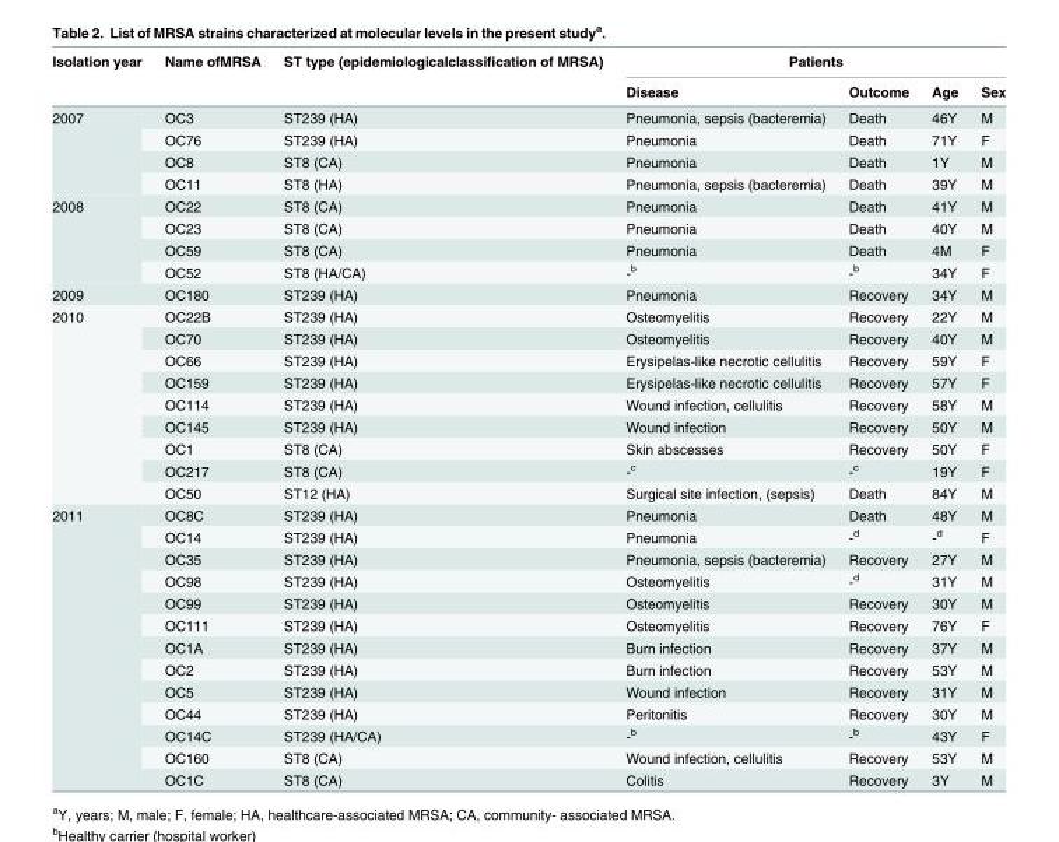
<table><thead><tr><td rowspan="2">Isolation year</td><td rowspan="2">Name ofMRSA</td><td rowspan="2">ST type (epidemiologicalclassification of MRSA)</td><td colspan="4">Patients</td></tr><tr><td>Disease</td><td>Outcome</td><td>Age</td><td>Sex</td></tr></thead><tbody><tr><td rowspan="4">2007</td><td>OC3</td><td>ST239 (HA)</td><td>Pneumonia, sepsis (bacteremia)</td><td>Death</td><td>46Y</td><td>M</td></tr><tr><td>OC76</td><td>ST239 (HA)</td><td>Pneumonia</td><td>Death</td><td>71Y</td><td>F</td></tr><tr><td>OC8</td><td>ST8 (CA)</td><td>Pneumonia</td><td>Death</td><td>1Y</td><td>M</td></tr><tr><td>OC11</td><td>ST8 (HA)</td><td>Pneumonia, sepsis (bacteremia)</td><td>Death</td><td>39Y</td><td>M</td></tr><tr><td rowspan="4">2008</td><td>OC22</td><td>ST8 (CA)</td><td>Pneumonia</td><td>Death</td><td>41Y</td><td>M</td></tr><tr><td>OC23</td><td>ST8 (CA)</td><td>Pneumonia</td><td>Death</td><td>40Y</td><td>M</td></tr><tr><td>OC59</td><td>ST8 (CA)</td><td>Pneumonia</td><td>Death</td><td>4M</td><td>F</td></tr><tr><td>OC52</td><td>ST8 (HA/CA)</td><td>-<sup>b</sup></td><td>-<sup>b</sup></td><td>34Y</td><td>F</td></tr><tr><td>2009</td><td>OC180</td><td>ST239 (HA)</td><td>Pneumonia</td><td>Recovery</td><td>34Y</td><td>M</td></tr><tr><td rowspan="9">2010</td><td>OC22B</td><td>ST239 (HA)</td><td>Osteomyelitis</td><td>Recovery</td><td>22Y</td><td>M</td></tr><tr><td>OC70</td><td>ST239 (HA)</td><td>Osteomyelitis</td><td>Recovery</td><td>40Y</td><td>M</td></tr><tr><td>OC66</td><td>ST239 (HA)</td><td>Erysipelas-like necrotic cellulitis</td><td>Recovery</td><td>59Y</td><td>F</td></tr><tr><td>OC159</td><td>ST239 (HA)</td><td>Erysipelas-like necrotic cellulitis</td><td>Recovery</td><td>57Y</td><td>F</td></tr><tr><td>OC114</td><td>ST239 (HA)</td><td>Wound infection, cellulitis</td><td>Recovery</td><td>58Y</td><td>M</td></tr><tr><td>OC145</td><td>ST239 (HA)</td><td>Wound infection</td><td>Recovery</td><td>50Y</td><td>M</td></tr><tr><td>OC1</td><td>ST8 (CA)</td><td>Skin abscesses</td><td>Recovery</td><td>50Y</td><td>F</td></tr><tr><td>OC217</td><td>ST8 (CA)</td><td>-<sup>c</sup></td><td>-<sup>c</sup></td><td>19Y</td><td>F</td></tr><tr><td>OC50</td><td>ST12 (HA)</td><td>Surgical site infection, (sepsis)</td><td>Death</td><td>84Y</td><td>M</td></tr><tr><td rowspan="13">2011</td><td>OC8C</td><td>ST239 (HA)</td><td>Pneumonia</td><td>Death</td><td>48Y</td><td>M</td></tr><tr><td>OC14</td><td>ST239 (HA)</td><td>Pneumonia</td><td>-<sup>d</sup></td><td>-<sup>d</sup></td><td>F</td></tr><tr><td>OC35</td><td>ST239 (HA)</td><td>Pneumonia, sepsis (bacteremia)</td><td>Recovery</td><td>27Y</td><td>M</td></tr><tr><td>OC98</td><td>ST239 (HA)</td><td>Osteomyelitis</td><td>-<sup>d</sup></td><td>31Y</td><td>M</td></tr><tr><td>OC99</td><td>ST239 (HA)</td><td>Osteomyelitis</td><td>Recovery</td><td>30Y</td><td>M</td></tr><tr><td>OC111</td><td>ST239 (HA)</td><td>Osteomyelitis</td><td>Recovery</td><td>76Y</td><td>F</td></tr><tr><td>OC1A</td><td>ST239 (HA)</td><td>Burn infection</td><td>Recovery</td><td>37Y</td><td>M</td></tr><tr><td>OC2</td><td>ST239 (HA)</td><td>Burn infection</td><td>Recovery</td><td>53Y</td><td>M</td></tr><tr><td>OC5</td><td>ST239 (HA)</td><td>Wound infection</td><td>Recovery</td><td>31Y</td><td>M</td></tr><tr><td>OC44</td><td>ST239 (HA)</td><td>Peritonitis</td><td>Recovery</td><td>30Y</td><td>M</td></tr><tr><td>OC14C</td><td>ST239 (HA/CA)</td><td>-<sup>b</sup></td><td>-<sup>b</sup></td><td>43Y</td><td>F</td></tr><tr><td>OC160</td><td>ST8 (CA)</td><td>Wound infection, cellulitis</td><td>Recovery</td><td>53Y</td><td>M</td></tr><tr><td>OC1C</td><td>ST8 (CA)</td><td>Colitis</td><td>Recovery</td><td>3Y</td><td>M</td></tr></tbody></table>